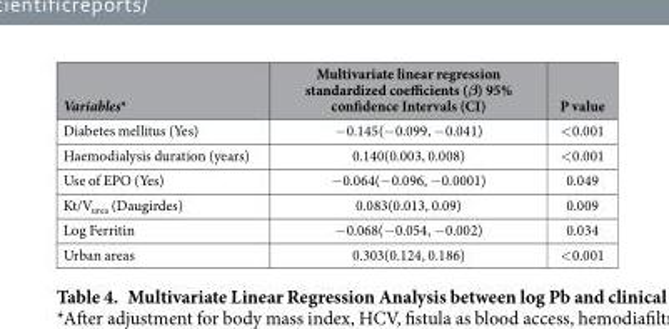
<table><thead><tr><td>Variables*</td><td>Multivariate linear regression standardized coefficients (β) 95% confidence Intervals (CI)</td><td>P value</td></tr></thead><tbody><tr><td>Diabetes mellitus (Yes)</td><td>−0.145(−0.099, −0.041)</td><td>&lt;0.001</td></tr><tr><td>Haemodialysis duration (years)</td><td>0.140(0.003, 0.008)</td><td>&lt;0.001</td></tr><tr><td>Use of EPO (Yes)</td><td>−0.064(−0.096, −0.0001)</td><td>0.049</td></tr><tr><td>Kt/V<sub>urea</sub> (Daugirdes)</td><td>0.083(0.013, 0.09)</td><td>0.009</td></tr><tr><td>Log Ferritin</td><td>−0.068(−0.054, −0.002)</td><td>0.034</td></tr><tr><td>Urban areas</td><td>0.303(0.124, 0.186)</td><td>&lt;0.001</td></tr></tbody></table>